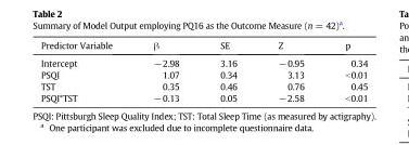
<table><thead><tr><td>Predictor Variable</td><td>β</td><td>SE</td><td>Z</td><td>p</td></tr></thead><tbody><tr><td>Intercept</td><td>−2.98</td><td>3.16</td><td>−0.95</td><td>0.34</td></tr><tr><td>PSQI</td><td>1.07</td><td>0.34</td><td>3.13</td><td>&lt;0.01</td></tr><tr><td>TST</td><td>0.35</td><td>0.46</td><td>0.76</td><td>0.45</td></tr><tr><td>PSQI*TST</td><td>−0.13</td><td>0.05</td><td>−2.58</td><td>&lt;0.01</td></tr></tbody></table>